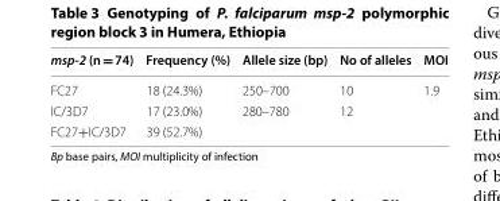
<table><thead><tr><td>msp‑2 (n = 74)</td><td>Frequency (%)</td><td>Allele size (bp)</td><td>No of alleles</td><td>MOI</td></tr></thead><tbody><tr><td>FC27</td><td>18 (24.3%)</td><td>250–700</td><td>10</td><td>1.9</td></tr><tr><td>IC/3D7</td><td>17 (23.0%)</td><td>280–780</td><td>12</td><td></td></tr><tr><td>FC27+IC/3D7</td><td>39 (52.7%)</td><td></td><td></td><td></td></tr></tbody></table>